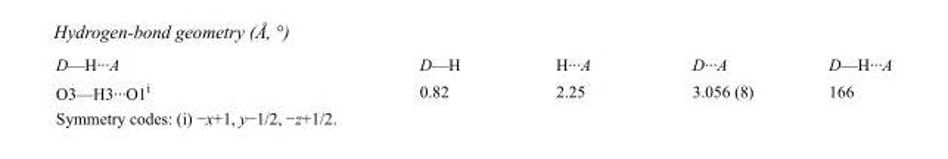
<table><tbody><tr><td>D—H···A</td><td>D—H</td><td>H···A</td><td>D···A</td><td>D—H···A</td></tr><tr><td>O3—H3···O1<sup>i</sup></td><td>0.82</td><td>2.25</td><td>3.056 (8)</td><td>166</td></tr></tbody></table>